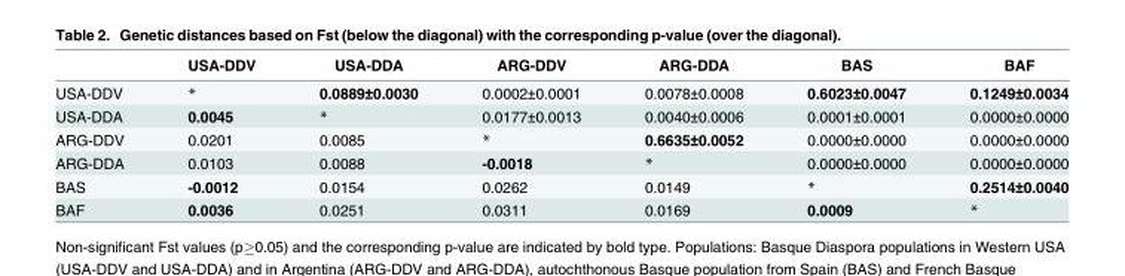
<table><thead><tr><td></td><td>USA-DDV</td><td>USA-DDA</td><td>ARG-DDV</td><td>ARG-DDA</td><td>BAS</td><td>BAF</td></tr></thead><tbody><tr><td>USA-DDV</td><td>*</td><td>0.0889±0.0030</td><td>0.0002±0.0001</td><td>0.0078±0.0008</td><td>0.6023±0.0047</td><td>0.1249±0.0034</td></tr><tr><td>USA-DDA</td><td>0.0045</td><td>*</td><td>0.0177±0.0013</td><td>0.0040±0.0006</td><td>0.0001±0.0001</td><td>0.0000±0.0000</td></tr><tr><td>ARG-DDV</td><td>0.0201</td><td>0.0085</td><td>*</td><td>0.6635±0.0052</td><td>0.0000±0.0000</td><td>0.0000±0.0000</td></tr><tr><td>ARG-DDA</td><td>0.0103</td><td>0.0088</td><td>-0.0018</td><td>*</td><td>0.0000±0.0000</td><td>0.0000±0.0000</td></tr><tr><td>BAS</td><td>-0.0012</td><td>0.0154</td><td>0.0262</td><td>0.0149</td><td>*</td><td>0.2514±0.0040</td></tr><tr><td>BAF</td><td>0.0036</td><td>0.0251</td><td>0.0311</td><td>0.0169</td><td>0.0009</td><td>*</td></tr></tbody></table>